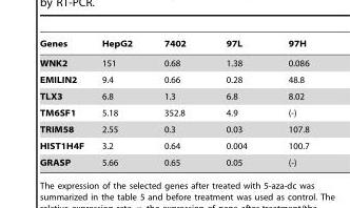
<table><thead><tr><td>Genes</td><td>HepG2</td><td>7402</td><td>97L</td><td>97H</td></tr></thead><tbody><tr><td>WNK2</td><td>151</td><td>0.68</td><td>1.38</td><td>0.086</td></tr><tr><td>EMILIN2</td><td>9.4</td><td>0.66</td><td>0.28</td><td>48.8</td></tr><tr><td>TLX3</td><td>6.8</td><td>1.3</td><td>6.8</td><td>8.02</td></tr><tr><td>TM6SF1</td><td>5.18</td><td>352.8</td><td>4.9</td><td>(-)</td></tr><tr><td>TRIM58</td><td>2.55</td><td>0.3</td><td>0.03</td><td>107.8</td></tr><tr><td>HIST1H4F</td><td>3.2</td><td>0.64</td><td>0.004</td><td>100.7</td></tr><tr><td>GRASP</td><td>5.66</td><td>0.65</td><td>0.05</td><td>(-)</td></tr></tbody></table>